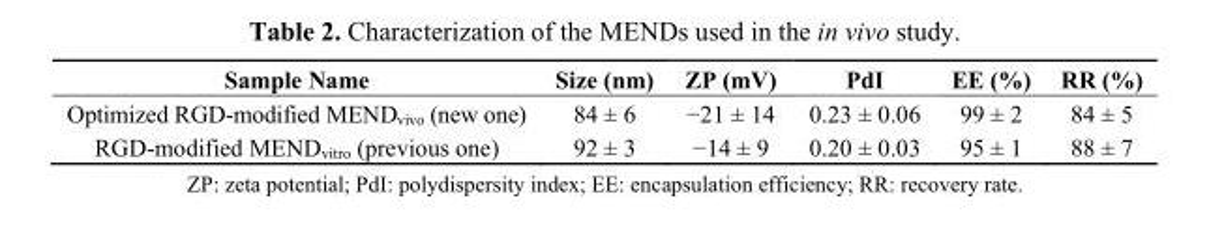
<table><thead><tr><td>Sample Name</td><td>Size (nm)</td><td>ZP (mV)</td><td>PdI</td><td>EE (%)</td><td>RR (%)</td></tr></thead><tbody><tr><td>Optimized RGD-modified MEND<sub>vivo</sub> (new one)</td><td>84 ± 6</td><td>−21 ± 14</td><td>0.23 ± 0.06</td><td>99 ± 2</td><td>84 ± 5</td></tr><tr><td>RGD-modified MEND<sub>vitro</sub> (previous one)</td><td>92 ± 3</td><td>−14 ± 9</td><td>0.20 ± 0.03</td><td>95 ± 1</td><td>88 ± 7</td></tr></tbody></table>